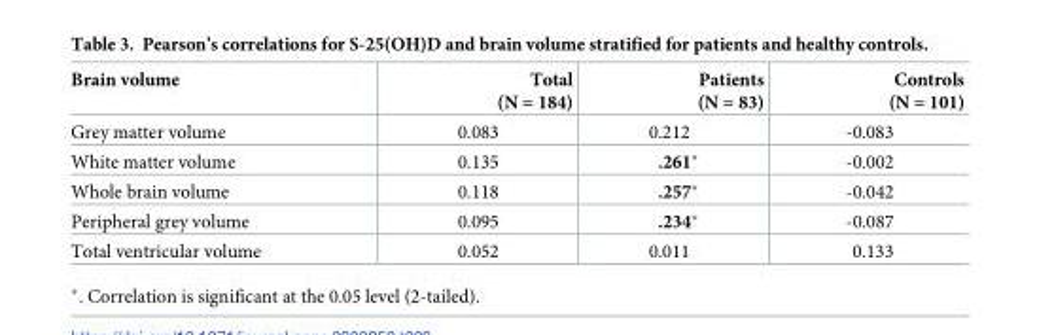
<table><thead><tr><td>Brain volume</td><td>Total (N = 184)</td><td>Patients (N = 83)</td><td>Controls (N = 101)</td></tr></thead><tbody><tr><td>Grey matter volume</td><td>0.083</td><td>0.212</td><td>-0.083</td></tr><tr><td>White matter volume</td><td>0.135</td><td>.261*</td><td>-0.002</td></tr><tr><td>Whole brain volume</td><td>0.118</td><td>.257*</td><td>-0.042</td></tr><tr><td>Peripheral grey volume</td><td>0.095</td><td>.234*</td><td>-0.087</td></tr><tr><td>Total ventricular volume</td><td>0.052</td><td>0.011</td><td>0.133</td></tr></tbody></table>